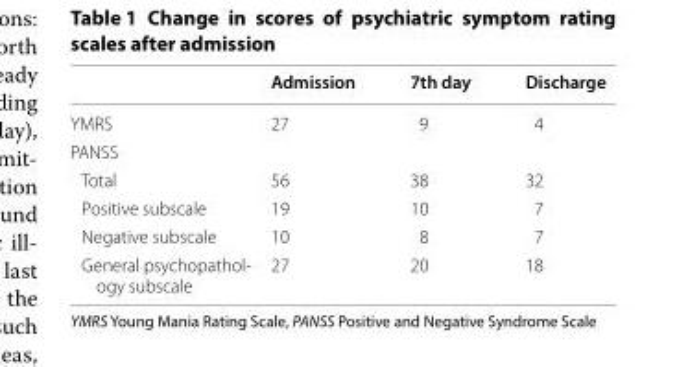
<table><thead><tr><td></td><td>Admission</td><td>7th day</td><td>Discharge</td></tr></thead><tbody><tr><td>YMRS</td><td>27</td><td>9</td><td>4</td></tr><tr><td colspan="4">PANSS</td></tr><tr><td>Total</td><td>56</td><td>38</td><td>32</td></tr><tr><td>Positive subscale</td><td>19</td><td>10</td><td>7</td></tr><tr><td>Negative subscale</td><td>10</td><td>8</td><td>7</td></tr><tr><td>General psychopathol‑ ogy subscale</td><td>27</td><td>20</td><td>18</td></tr></tbody></table>